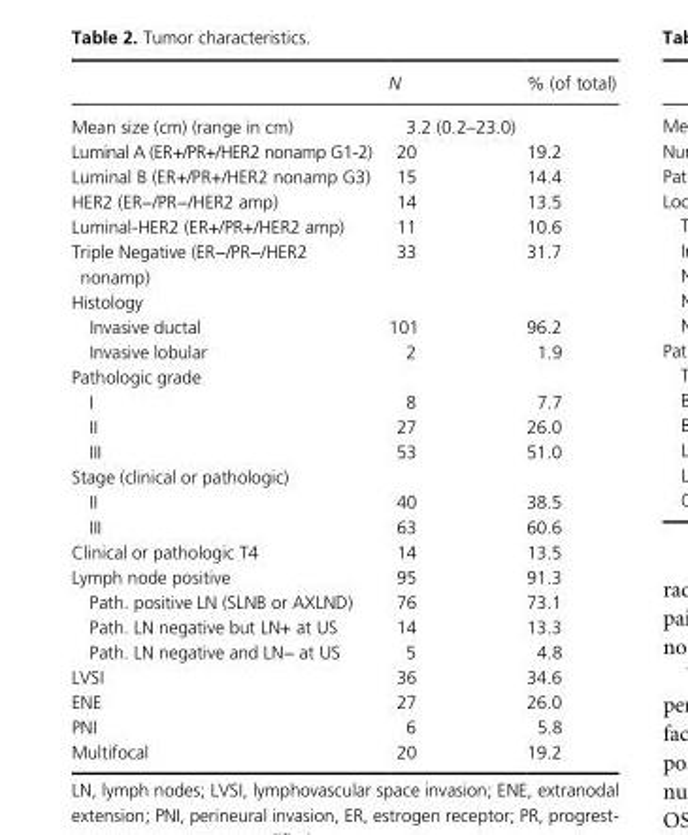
<table><thead><tr><td></td><td>N</td><td>% (of total)</td></tr></thead><tbody><tr><td>Mean size (cm) (range in cm)</td><td>3.2 (0.2–23.0)</td><td></td></tr><tr><td>Luminal A (ER+/PR+/HER2 nonamp G1- 2)</td><td>20</td><td>19.2</td></tr><tr><td>Luminal B (ER+/PR+/HER2 nonamp G3)</td><td>15</td><td>14.4</td></tr><tr><td>HER2 (ER−/PR−/HER2 amp)</td><td>14</td><td>13.5</td></tr><tr><td>Luminal- HER2 (ER+/PR+/HER2 amp)</td><td>11</td><td>10.6</td></tr><tr><td>Triple Negative (ER−/PR−/HER2 nonamp)</td><td>33</td><td>31.7</td></tr><tr><td colspan="3">Histology</td></tr><tr><td>Invasive ductal</td><td>101</td><td>96.2</td></tr><tr><td>Invasive lobular</td><td>2</td><td>1.9</td></tr><tr><td colspan="3">Pathologic grade</td></tr><tr><td>I</td><td>8</td><td>7.7</td></tr><tr><td>II</td><td>27</td><td>26.0</td></tr><tr><td>III</td><td>53</td><td>51.0</td></tr><tr><td colspan="3">Stage (clinical or pathologic)</td></tr><tr><td>II</td><td>40</td><td>38.5</td></tr><tr><td>III</td><td>63</td><td>60.6</td></tr><tr><td>Clinical or pathologic T4</td><td>14</td><td>13.5</td></tr><tr><td>Lymph node positive</td><td>95</td><td>91.3</td></tr><tr><td>Path. positive LN (SLNB or AXLND)</td><td>76</td><td>73.1</td></tr><tr><td>Path. LN negative but LN+ at US</td><td>14</td><td>13.3</td></tr><tr><td>Path. LN negative and LN− at US</td><td>5</td><td>4.8</td></tr><tr><td>LVSI</td><td>36</td><td>34.6</td></tr><tr><td>ENE</td><td>27</td><td>26.0</td></tr><tr><td>PNI</td><td>6</td><td>5.8</td></tr><tr><td>Multifocal</td><td>20</td><td>19.2</td></tr></tbody></table>